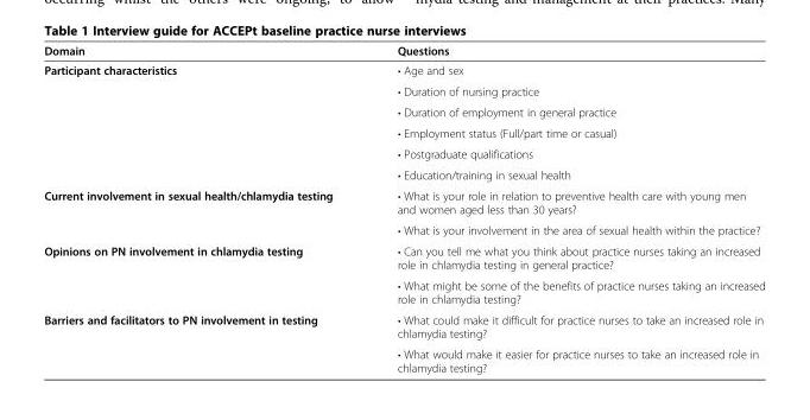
<table><thead><tr><td>Domain</td><td>Questions</td></tr></thead><tbody><tr><td rowspan="6">Participant characteristics</td><td>• Age and sex</td></tr><tr><td>• Duration of nursing practice</td></tr><tr><td>• Duration of employment in general practice</td></tr><tr><td>• Employment status (Full/part time or casual)</td></tr><tr><td>• Postgraduate qualifications</td></tr><tr><td>• Education/training in sexual health</td></tr><tr><td rowspan="2">Current involvement in sexual health/chlamydia testing</td><td>• What is your role in relation to preventive health care with young men and women aged less than 30 years?</td></tr><tr><td>• What is your involvement in the area of sexual health within the practice?</td></tr><tr><td rowspan="2">Opinions on PN involvement in chlamydia testing</td><td>• Can you tell me what you think about practice nurses taking an increased role in chlamydia testing in general practice?</td></tr><tr><td>• What might be some of the benefits of practice nurses taking an increased role in chlamydia testing?</td></tr><tr><td rowspan="2">Barriers and facilitators to PN involvement in testing</td><td>• What could make it difficult for practice nurses to take an increased role in chlamydia testing?</td></tr><tr><td>• What would make it easier for practice nurses to take an increased role in chlamydia testing?</td></tr></tbody></table>